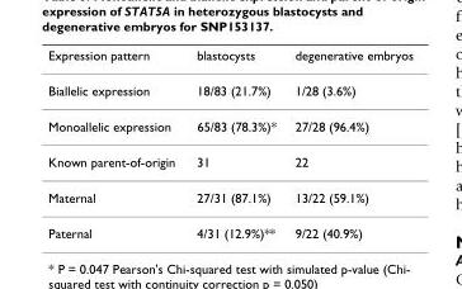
<table><thead><tr><td>Expression pattern</td><td>blastocysts</td><td>degenerative embryos</td></tr></thead><tbody><tr><td>Biallelic expression</td><td>18/83 (21.7%)</td><td>1/28 (3.6%)</td></tr><tr><td>Monoallelic expression</td><td>65/83 (78.3%)*</td><td>27/28 (96.4%)</td></tr><tr><td>Known parent-of-origin</td><td>31</td><td>22</td></tr><tr><td>Maternal</td><td>27/31 (87.1%)</td><td>13/22 (59.1%)</td></tr><tr><td>Paternal</td><td>4/31 (12.9%)**</td><td>9/22 (40.9%)</td></tr></tbody></table>